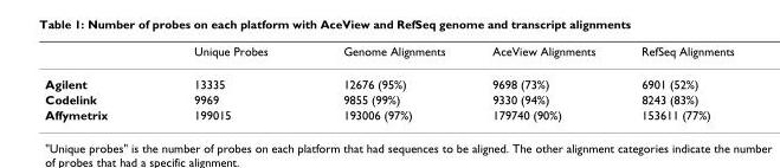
<table><thead><tr><td></td><td>Unique Probes</td><td>Genome Alignments</td><td>AceView Alignments</td><td>RefSeq Alignments</td></tr></thead><tbody><tr><td>Agilent</td><td>13335</td><td>12676 (95%)</td><td>9698 (73%)</td><td>6901 (52%)</td></tr><tr><td>Codelink</td><td>9969</td><td>9855 (99%)</td><td>9330 (94%)</td><td>8243 (83%)</td></tr><tr><td>Affymetrix</td><td>199015</td><td>193006 (97%)</td><td>179740 (90%)</td><td>153611 (77%)</td></tr></tbody></table>